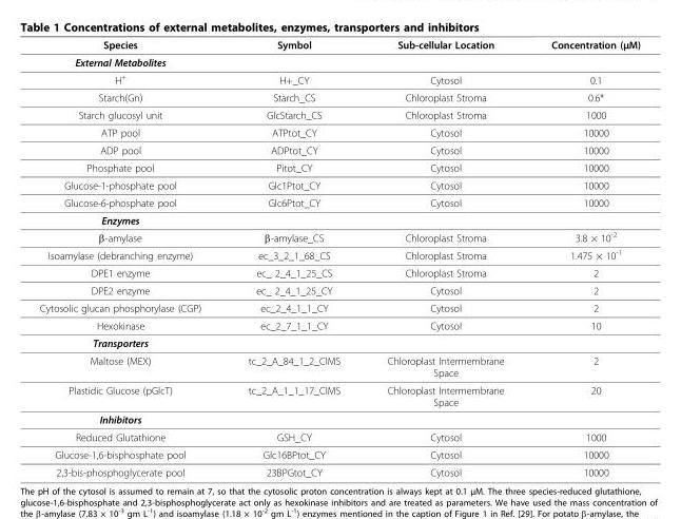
<table><thead><tr><td>Species</td><td>Symbol</td><td>Sub-cellular Location</td><td>Concentration (μM)</td></tr></thead><tbody><tr><td colspan="4">External Metabolites</td></tr><tr><td>H<sup>+</sup></td><td>H+_CY</td><td>Cytosol</td><td>0.1</td></tr><tr><td>Starch(Gn)</td><td>Starch_CS</td><td>Chloroplast Stroma</td><td>0.6*</td></tr><tr><td>Starch glucosyl unit</td><td>GlcStarch_CS</td><td>Chloroplast Stroma</td><td>1000</td></tr><tr><td>ATP pool</td><td>ATPtot_CY</td><td>Cytosol</td><td>10000</td></tr><tr><td>ADP pool</td><td>ADPtot_CY</td><td>Cytosol</td><td>10000</td></tr><tr><td>Phosphate pool</td><td>Pitot_CY</td><td>Cytosol</td><td>10000</td></tr><tr><td>Glucose-1-phosphate pool</td><td>Glc1Ptot_CY</td><td>Cytosol</td><td>10000</td></tr><tr><td>Glucose-6-phosphate pool</td><td>Glc6Ptot_CY</td><td>Cytosol</td><td>10000</td></tr><tr><td colspan="4">Enzymes</td></tr><tr><td>β-amylase</td><td>β-amylase_CS</td><td>Chloroplast Stroma</td><td>3.8 × 10<sup>-2</sup></td></tr><tr><td>Isoamylase (debranching enzyme)</td><td>ec_3_2_1_68_CS</td><td>Chloroplast Stroma</td><td>1.475 × 10<sup>-1</sup></td></tr><tr><td>DPE1 enzyme</td><td>ec_ 2_4_1_25_CS</td><td>Chloroplast Stroma</td><td>2</td></tr><tr><td>DPE2 enzyme</td><td>ec_ 2_4_1_25_CY</td><td>Cytosol</td><td>2</td></tr><tr><td>Cytosolic glucan phosphorylase (CGP)</td><td>ec_2_4_1_1_CY</td><td>Cytosol</td><td>2</td></tr><tr><td>Hexokinase</td><td>ec_2_7_1_1_CY</td><td>Cytosol</td><td>10</td></tr><tr><td colspan="4">Transporters</td></tr><tr><td>Maltose (MEX)</td><td>tc_2_A_84_1_2_CIMS</td><td>Chloroplast Intermembrane Space</td><td>2</td></tr><tr><td>Plastidic Glucose (pGlcT)</td><td>tc_2_A_1_1_17_CIMS</td><td>Chloroplast Intermembrane Space</td><td>20</td></tr><tr><td colspan="4">Inhibitors</td></tr><tr><td>Reduced Glutathione</td><td>GSH_CY</td><td>Cytosol</td><td>1000</td></tr><tr><td>Glucose-1,6-bisphosphate pool</td><td>Glc16BPtot_CY</td><td>Cytosol</td><td>10000</td></tr><tr><td>2,3-bis-phosphoglycerate pool</td><td>23BPGtot_CY</td><td>Cytosol</td><td>10000</td></tr></tbody></table>